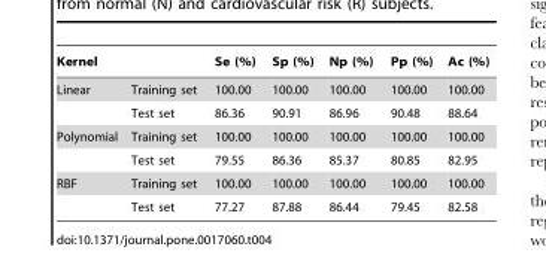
<table><thead><tr><td>Kernel</td><td></td><td>Se (%)</td><td>Sp (%)</td><td>Np (%)</td><td>Pp (%)</td><td>Ac (%)</td></tr></thead><tbody><tr><td rowspan="2">Linear</td><td>Training set</td><td>100.00</td><td>100.00</td><td>100.00</td><td>100.00</td><td>100.00</td></tr><tr><td>Test set</td><td>86.36</td><td>90.91</td><td>86.96</td><td>90.48</td><td>88.64</td></tr><tr><td rowspan="2">Polynomial</td><td>Training set</td><td>100.00</td><td>100.00</td><td>100.00</td><td>100.00</td><td>100.00</td></tr><tr><td>Test set</td><td>79.55</td><td>86.36</td><td>85.37</td><td>80.85</td><td>82.95</td></tr><tr><td rowspan="2">RBF</td><td>Training set</td><td>100.00</td><td>100.00</td><td>100.00</td><td>100.00</td><td>100.00</td></tr><tr><td>Test set</td><td>77.27</td><td>87.88</td><td>86.44</td><td>79.45</td><td>82.58</td></tr></tbody></table>